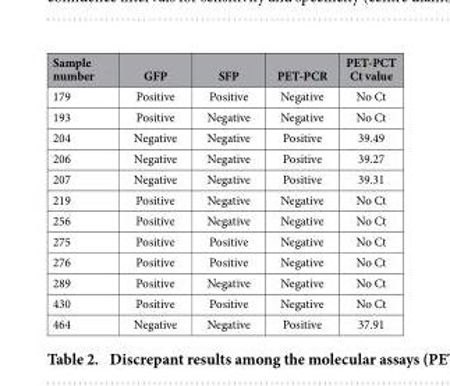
<table><thead><tr><td>Sample number</td><td>GFP</td><td>SFP</td><td>PET-PCR</td><td>PET-PCT Ct value</td></tr></thead><tbody><tr><td>179</td><td>Positive</td><td>Positive</td><td>Negative</td><td>No Ct</td></tr><tr><td>193</td><td>Positive</td><td>Negative</td><td>Negative</td><td>No Ct</td></tr><tr><td>204</td><td>Negative</td><td>Negative</td><td>Positive</td><td>39.49</td></tr><tr><td>206</td><td>Negative</td><td>Negative</td><td>Positive</td><td>39.27</td></tr><tr><td>207</td><td>Negative</td><td>Negative</td><td>Positive</td><td>39.31</td></tr><tr><td>219</td><td>Positive</td><td>Negative</td><td>Negative</td><td>No Ct</td></tr><tr><td>256</td><td>Positive</td><td>Negative</td><td>Negative</td><td>No Ct</td></tr><tr><td>275</td><td>Positive</td><td>Positive</td><td>Negative</td><td>No Ct</td></tr><tr><td>276</td><td>Positive</td><td>Positive</td><td>Negative</td><td>No Ct</td></tr><tr><td>289</td><td>Positive</td><td>Negative</td><td>Negative</td><td>No Ct</td></tr><tr><td>430</td><td>Positive</td><td>Positive</td><td>Negative</td><td>No Ct</td></tr><tr><td>464</td><td>Negative</td><td>Negative</td><td>Positive</td><td>37.91</td></tr></tbody></table>